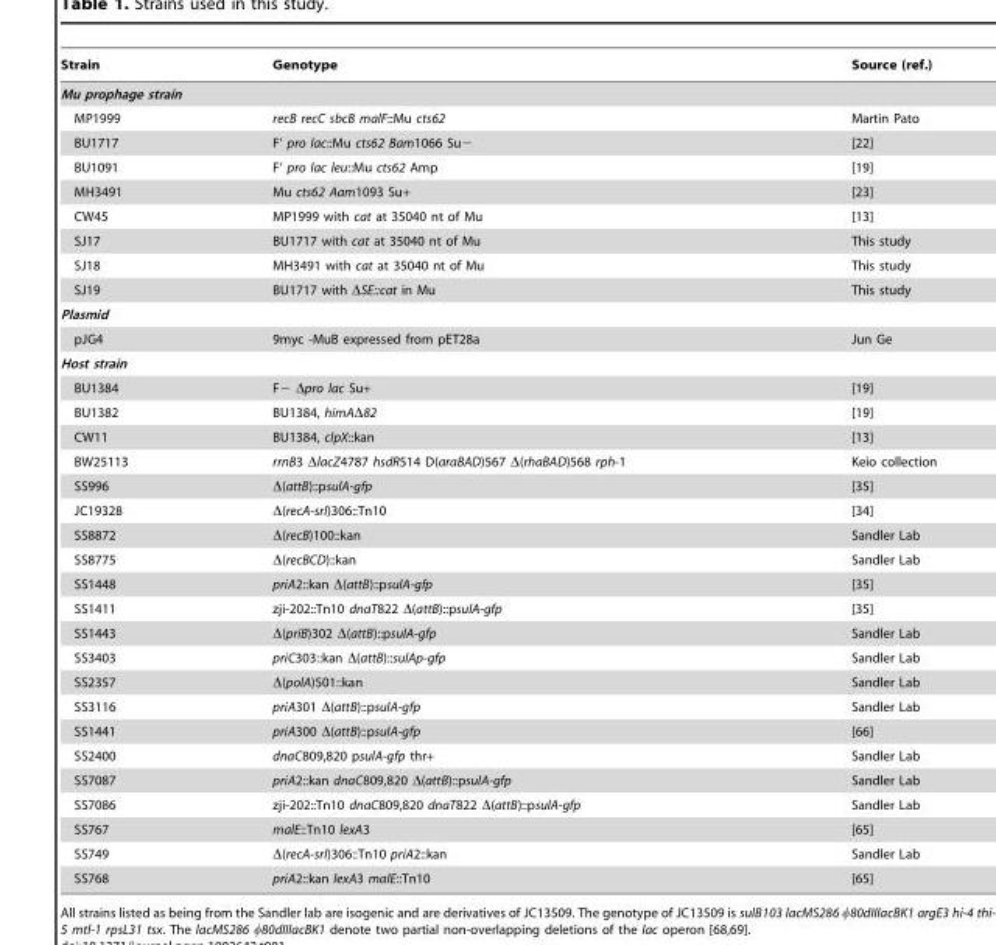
<table><thead><tr><td>Strain</td><td>Genotype</td><td>Source (ref.)</td></tr></thead><tbody><tr><td colspan="3">Mu prophage strain</td></tr><tr><td>MP1999</td><td>recB recC sbcB malF::Mu cts62</td><td>Martin Pato</td></tr><tr><td>BU1717</td><td>F’ pro lac::Mu cts62 Bam1066 Su−</td><td>[22]</td></tr><tr><td>BU1091</td><td>F’ pro lac leu::Mu cts62 Amp</td><td>[19]</td></tr><tr><td>MH3491</td><td>Mu cts62 Aam1093 Su+</td><td>[23]</td></tr><tr><td>CW45</td><td>MP1999 with cat at 35040 nt of Mu</td><td>[13]</td></tr><tr><td>SJ17</td><td>BU1717 with cat at 35040 nt of Mu</td><td>This study</td></tr><tr><td>SJ18</td><td>MH3491 with cat at 35040 nt of Mu</td><td>This study</td></tr><tr><td>SJ19</td><td>BU1717 with ΔSE::cat in Mu</td><td>This study</td></tr><tr><td colspan="3">Plasmid</td></tr><tr><td>pJG4</td><td>9myc -MuB expressed from pET28a</td><td>Jun Ge</td></tr><tr><td colspan="3">Host strain</td></tr><tr><td>BU1384</td><td>F− Δpro lac Su+</td><td>[19]</td></tr><tr><td>BU1382</td><td>BU1384, himAΔ82</td><td>[19]</td></tr><tr><td>CW11</td><td>BU1384, clpX::kan</td><td>[13]</td></tr><tr><td>BW25113</td><td>rrnB3 ΔlacZ4787 hsdR514 D(araBAD)567 Δ(rhaBAD)568 rph-1</td><td>Keio collection</td></tr><tr><td>SS996</td><td>Δ(attB)::psulA-gfp</td><td>[35]</td></tr><tr><td>JC19328</td><td>Δ(recA-srl)306::Tn10</td><td>[34]</td></tr><tr><td>SS8872</td><td>Δ(recB)100::kan</td><td>Sandler Lab</td></tr><tr><td>SS8775</td><td>Δ(recBCD)::kan</td><td>Sandler Lab</td></tr><tr><td>SS1448</td><td>priA2::kan Δ(attB)::psulA-gfp</td><td>[35]</td></tr><tr><td>SS1411</td><td>zji-202::Tn10 dnaT822 Δ(attB)::psulA-gfp</td><td>[35]</td></tr><tr><td>SS1443</td><td>Δ(priB)302 Δ(attB)::psulA-gfp</td><td>Sandler Lab</td></tr><tr><td>SS3403</td><td>priC303::kan Δ(attB)::sulAp-gfp</td><td>Sandler Lab</td></tr><tr><td>SS2357</td><td>Δ(polA)501::kan</td><td>Sandler Lab</td></tr><tr><td>SS3116</td><td>priA301 Δ(attB)::psulA-gfp</td><td>Sandler Lab</td></tr><tr><td>SS1441</td><td>priA300 Δ(attB)::psulA-gfp</td><td>[66]</td></tr><tr><td>SS2400</td><td>dnaC809,820 psulA-gfp thr+</td><td>Sandler Lab</td></tr><tr><td>SS7087</td><td>priA2::kan dnaC809,820 Δ(attB)::psulA-gfp</td><td>Sandler Lab</td></tr><tr><td>SS7086</td><td>zji-202::Tn10 dnaC809,820 dnaT822 Δ(attB)::psulA-gfp</td><td>Sandler Lab</td></tr><tr><td>SS767</td><td>malE::Tn10 lexA3</td><td>[65]</td></tr><tr><td>SS749</td><td>Δ(recA-srl)306::Tn10 priA2::kan</td><td>Sandler Lab</td></tr><tr><td>SS768</td><td>priA2::kan lexA3 malE::Tn10</td><td>[65]</td></tr></tbody></table>